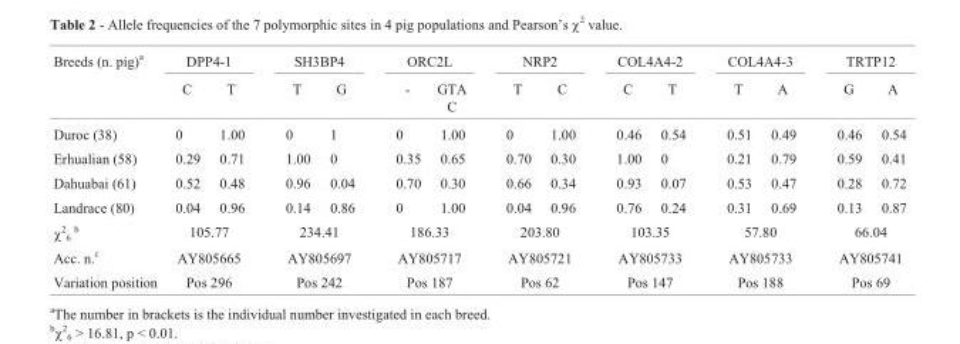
<table><thead><tr><td rowspan="2">Breeds (n. pig)<sup>a</sup></td><td colspan="2">DPP4-1</td><td colspan="2">SH3BP4</td><td colspan="2">ORC2L</td><td colspan="2">NRP2</td><td colspan="2">COL4A4-2</td><td colspan="2">COL4A4-3</td><td colspan="2">TRTP12</td></tr><tr><td>C</td><td>T</td><td>T</td><td>G</td><td>-</td><td>GTA C</td><td>T</td><td>C</td><td>C</td><td>T</td><td>T</td><td>A</td><td>G</td><td>A</td></tr></thead><tbody><tr><td>Duroc (38)</td><td>0</td><td>1.00</td><td>0</td><td>1</td><td>0</td><td>1.00</td><td>0</td><td>1.00</td><td>0.46</td><td>0.54</td><td>0.51</td><td>0.49</td><td>0.46</td><td>0.54</td></tr><tr><td>Erhualian (58)</td><td>0.29</td><td>0.71</td><td>1.00</td><td>0</td><td>0.35</td><td>0.65</td><td>0.70</td><td>0.30</td><td>1.00</td><td>0</td><td>0.21</td><td>0.79</td><td>0.59</td><td>0.41</td></tr><tr><td>Dahuabai (61)</td><td>0.52</td><td>0.48</td><td>0.96</td><td>0.04</td><td>0.70</td><td>0.30</td><td>0.66</td><td>0.34</td><td>0.93</td><td>0.07</td><td>0.53</td><td>0.47</td><td>0.28</td><td>0.72</td></tr><tr><td>Landrace (80)</td><td>0.04</td><td>0.96</td><td>0.14</td><td>0.86</td><td>0</td><td>1.00</td><td>0.04</td><td>0.96</td><td>0.76</td><td>0.24</td><td>0.31</td><td>0.69</td><td>0.13</td><td>0.87</td></tr><tr><td>χ<sup>2</sup> <sub>6</sub> <sup>b</sup></td><td colspan="2">105.77</td><td colspan="2">234.41</td><td colspan="2">186.33</td><td colspan="2">203.80</td><td colspan="2">103.35</td><td colspan="2">57.80</td><td colspan="2">66.04</td></tr><tr><td>Acc. n.<sup>c</sup></td><td colspan="2">AY805665</td><td colspan="2">AY805697</td><td colspan="2">AY805717</td><td colspan="2">AY805721</td><td colspan="2">AY805733</td><td colspan="2">AY805733</td><td colspan="2">AY805741</td></tr><tr><td>Variation position</td><td colspan="2">Pos 296</td><td colspan="2">Pos 242</td><td colspan="2">Pos 187</td><td colspan="2">Pos 62</td><td colspan="2">Pos 147</td><td colspan="2">Pos 188</td><td colspan="2">Pos 69</td></tr></tbody></table>